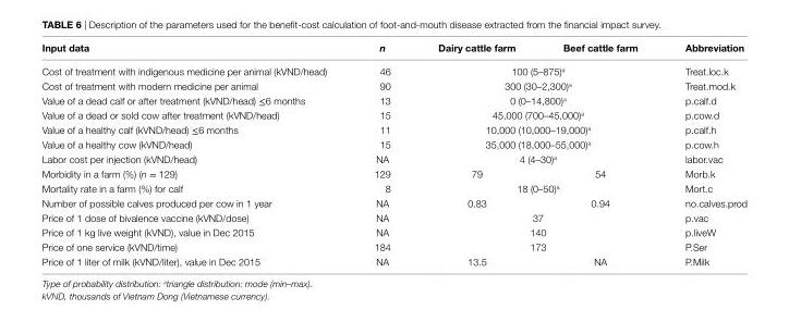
<table><thead><tr><td>input data</td><td>n</td><td>Dairy cattle farm</td><td>Beef cattle farm</td><td>abbreviation</td></tr></thead><tbody><tr><td>Cost of treatment with indigenous medicine per animal (kVND/head)</td><td>46</td><td colspan="2">100 (5–875)<sup>a</sup></td><td>Treat.loc.k</td></tr><tr><td>Cost of treatment with modern medicine per animal</td><td>90</td><td colspan="2">300 (30–2,300)<sup>a</sup></td><td>Treat.mod.k</td></tr><tr><td>Value of a dead calf or after treatment (kVND/head) ≤6 months</td><td>13</td><td colspan="2">0 (0–14,800)<sup>a</sup></td><td>p.calf.d</td></tr><tr><td>Value of a dead or sold cow after treatment (kVND/head)</td><td>15</td><td colspan="2">45,000 (700–45,000)<sup>a</sup></td><td>p.cow.d</td></tr><tr><td>Value of a healthy calf (kVND/head) ≤6 months</td><td>11</td><td colspan="2">10,000 (10,000–19,000)<sup>a</sup></td><td>p.calf.h</td></tr><tr><td>Value of a healthy cow (kVND/head)</td><td>15</td><td colspan="2">35,000 (18,000–55,000)<sup>a</sup></td><td>p.cow.h</td></tr><tr><td>Labor cost per injection (kVND/head)</td><td>NA</td><td colspan="2">4 (4–30)<sup>a</sup></td><td>labor.vac</td></tr><tr><td>Morbidity in a farm (%) (n = 129)</td><td>129</td><td>79</td><td>54</td><td>Morb.k</td></tr><tr><td>Mortality rate in a farm (%) for calf</td><td>8</td><td colspan="2">18 (0–50)<sup>a</sup></td><td>Mort.c</td></tr><tr><td>Number of possible calves produced per cow in 1 year</td><td>NA</td><td>0.83</td><td>0.94</td><td>no.calves.prod</td></tr><tr><td>Price of 1 dose of bivalence vaccine (kVND/dose)</td><td>NA</td><td colspan="2">37</td><td>p.vac</td></tr><tr><td>Price of 1 kg live weight (kVND), value in Dec 2015</td><td>NA</td><td colspan="2">140</td><td>p.liveW</td></tr><tr><td>Price of one service (kVND/time)</td><td>184</td><td colspan="2">173</td><td>P.Ser</td></tr><tr><td>Price of 1 liter of milk (kVND/liter), value in Dec 2015</td><td>NA</td><td>13.5</td><td>NA</td><td>P.Milk</td></tr></tbody></table>